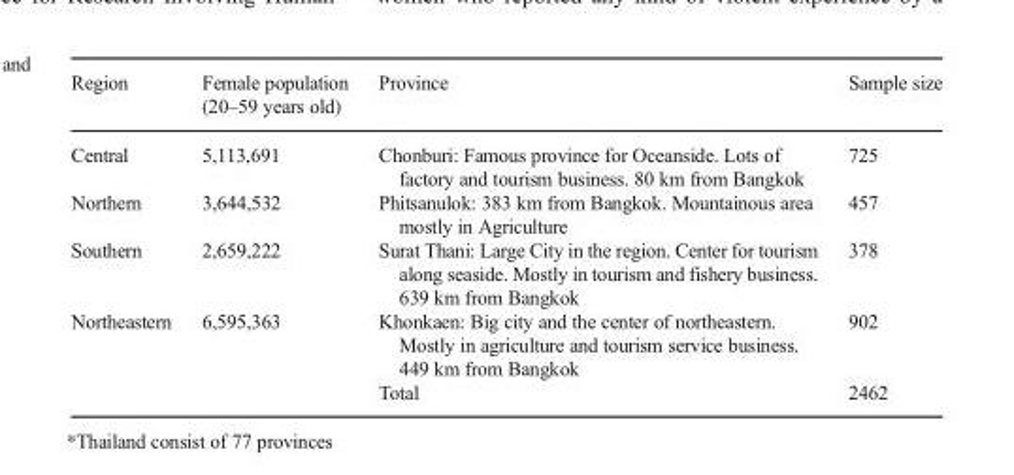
<table><thead><tr><td>Region</td><td>Female population (20–59 years old)</td><td>Province</td><td>Sample size</td></tr></thead><tbody><tr><td>Central</td><td>5,113,691</td><td>Chonburi: Famous province for Oceanside. Lots of factory and tourism business. 80 km from Bangkok</td><td>725</td></tr><tr><td>Northern</td><td>3,644,532</td><td>Phitsanulok: 383 km from Bangkok. Mountainous area mostly in Agriculture</td><td>457</td></tr><tr><td>Southern</td><td>2,659,222</td><td>Surat Thani: Large City in the region. Center for tourism along seaside. Mostly in tourism and fishery business. 639 km from Bangkok</td><td>378</td></tr><tr><td rowspan="2">Northeastern</td><td>6,595,363</td><td>Khonkaen: Big city and the center of northeastern. Mostly in agriculture and tourism service business. 449 km from Bangkok</td><td>902</td></tr><tr><td></td><td>Total</td><td>2462</td></tr></tbody></table>